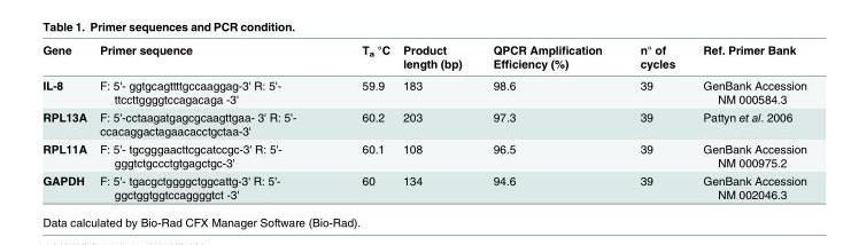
<table><thead><tr><td>Gene</td><td>Primer sequence</td><td>T<sub>a</sub> °C</td><td>Product length (bp)</td><td>QPCR Amplification Efficiency (%)</td><td>n° of cycles</td><td>Ref. Primer Bank</td></tr></thead><tbody><tr><td>IL-8</td><td>F: 5&#x27;- ggtgcagttttgccaaggag-3&#x27; R: 5&#x27;- ttccttggggtccagacaga -3&#x27;</td><td>59.9</td><td>183</td><td>98.6</td><td>39</td><td>GenBank Accession NM 000584.3</td></tr><tr><td>RPL13A</td><td>F: 5&#x27;-cctaagatgagcgcaagttgaa- 3&#x27; R: 5&#x27;- ccacaggactagaacacctgctaa-3&#x27;</td><td>60.2</td><td>203</td><td>97.3</td><td>39</td><td>Pattyn et al. 2006</td></tr><tr><td>RPL11A</td><td>F: 5&#x27;- tgcgggaacttcgcatccgc-3&#x27; R: 5&#x27;- gggtctgccctgtgagctgc-3&#x27;</td><td>60.1</td><td>108</td><td>96.5</td><td>39</td><td>GenBank Accession NM 000975.2</td></tr><tr><td>GAPDH</td><td>F: 5&#x27;- tgacgctggggctggcattg-3&#x27; R: 5&#x27;- ggctggtggtccaggggtct -3&#x27;</td><td>60</td><td>134</td><td>94.6</td><td>39</td><td>GenBank Accession NM 002046.3</td></tr></tbody></table>